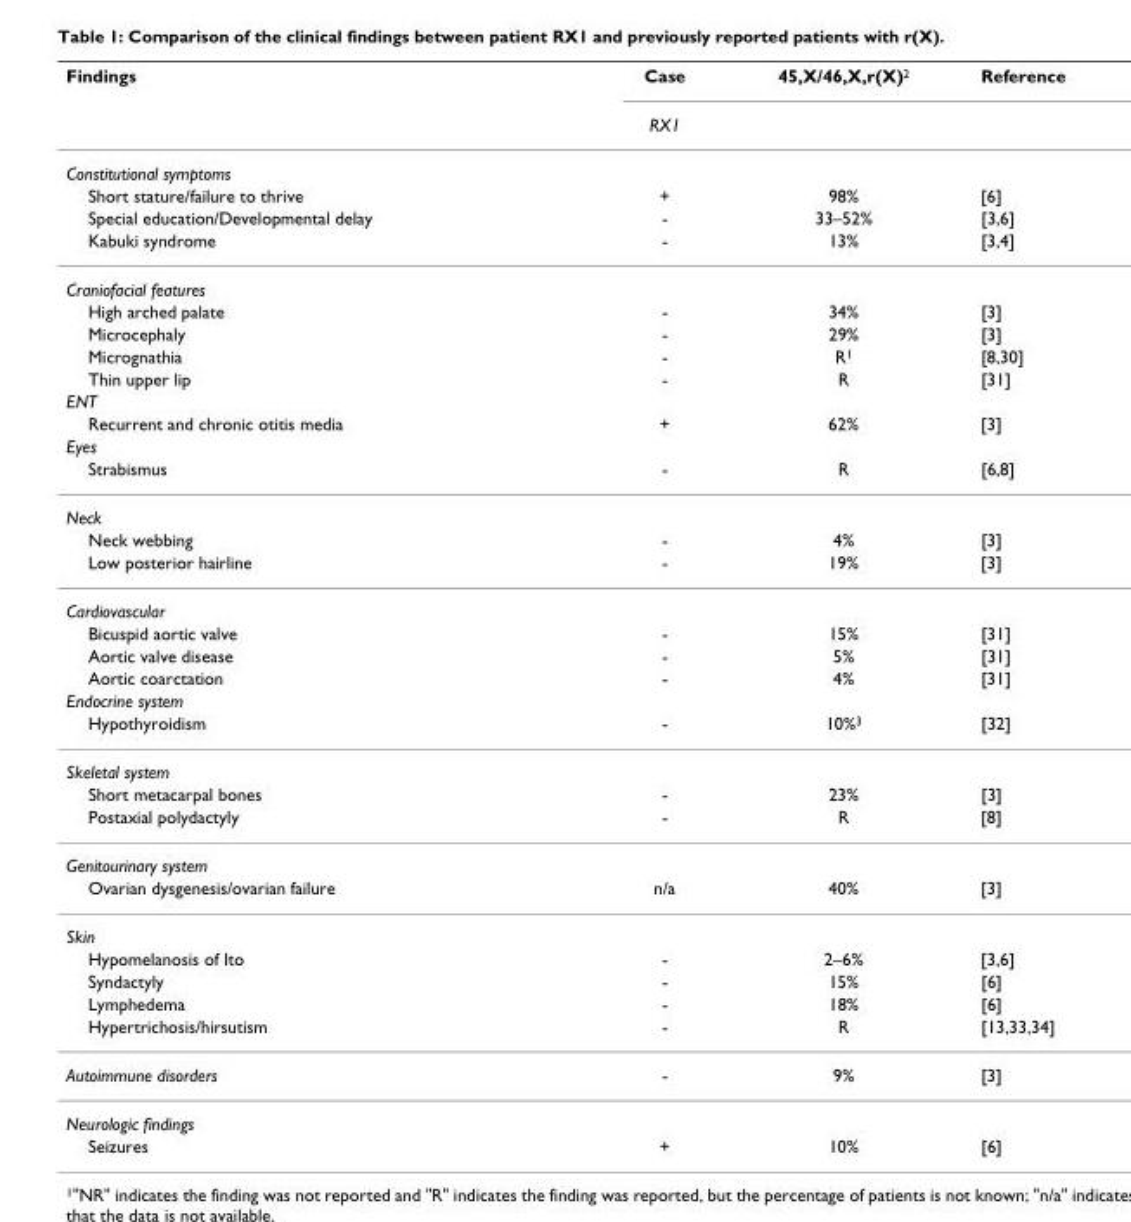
<table><thead><tr><td rowspan="2">Findings</td><td rowspan="2">Case RX1</td><td rowspan="2">45,X/46,X,r(X)<sup>2</sup></td><td rowspan="2">Reference</td></tr><tr></tr></thead><tbody><tr><td colspan="4">Constitutional symptoms</td></tr><tr><td>Short stature/failure to thrive</td><td>+</td><td>98%</td><td>[6]</td></tr><tr><td>Special education/Developmental delay</td><td>-</td><td>33–52%</td><td>[3,6]</td></tr><tr><td>Kabuki syndrome</td><td>-</td><td>13%</td><td>[3,4]</td></tr><tr><td colspan="4">Craniofacial features</td></tr><tr><td>High arched palate</td><td>-</td><td>34%</td><td>[3]</td></tr><tr><td>Microcephaly</td><td>-</td><td>29%</td><td>[3]</td></tr><tr><td>Micrognathia</td><td>-</td><td>R<sup>1</sup></td><td>[8,30]</td></tr><tr><td>Thin upper lip</td><td>-</td><td>R</td><td>[31]</td></tr><tr><td colspan="4">ENT</td></tr><tr><td>Recurrent and chronic otitis media</td><td>+</td><td>62%</td><td>[3]</td></tr><tr><td colspan="4">Eyes</td></tr><tr><td>Strabismus</td><td>-</td><td>R</td><td>[6,8]</td></tr><tr><td colspan="4">Neck</td></tr><tr><td>Neck webbing</td><td>-</td><td>4%</td><td>[3]</td></tr><tr><td>Low posterior hairline</td><td>-</td><td>19%</td><td>[3]</td></tr><tr><td colspan="4">Cardiovascular</td></tr><tr><td>Bicuspid aortic valve</td><td>-</td><td>15%</td><td>[31]</td></tr><tr><td>Aortic valve disease</td><td>-</td><td>5%</td><td>[31]</td></tr><tr><td>Aortic coarctation</td><td>-</td><td>4%</td><td>[31]</td></tr><tr><td colspan="4">Endocrine system</td></tr><tr><td>Hypothyroidism</td><td>-</td><td>10%<sup>3</sup></td><td>[32]</td></tr><tr><td colspan="4">Skeletal system</td></tr><tr><td>Short metacarpal bones</td><td>-</td><td>23%</td><td>[3]</td></tr><tr><td>Postaxial polydactyly</td><td>-</td><td>R</td><td>[8]</td></tr><tr><td colspan="4">Genitourinary system</td></tr><tr><td>Ovarian dysgenesis/ovarian failure</td><td>n/a</td><td>40%</td><td>[3]</td></tr><tr><td colspan="4">Skin</td></tr><tr><td>Hypomelanosis of Ito</td><td>-</td><td>2–6%</td><td>[3,6]</td></tr><tr><td>Syndactyly</td><td>-</td><td>15%</td><td>[6]</td></tr><tr><td>Lymphedema</td><td>-</td><td>18%</td><td>[6]</td></tr><tr><td>Hypertrichosis/hirsutism</td><td>-</td><td>R</td><td>[13,33,34]</td></tr><tr><td>Autoimmune disorders</td><td>-</td><td>9%</td><td>[3]</td></tr><tr><td colspan="4">Neurologic findings</td></tr><tr><td>Seizures</td><td>+</td><td>10%</td><td>[6]</td></tr></tbody></table>